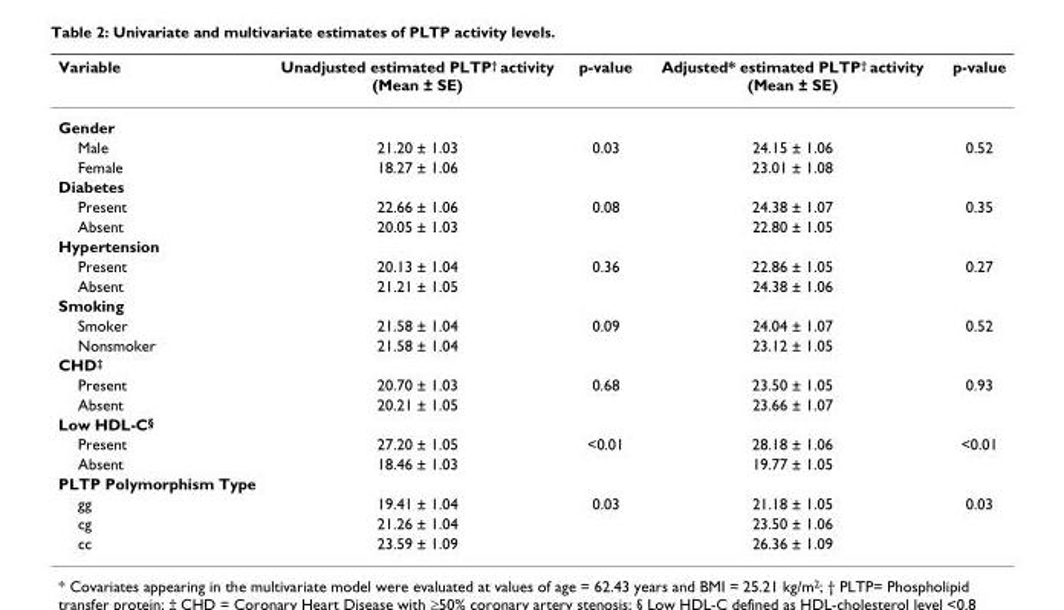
<table><thead><tr><td>Variable</td><td>Unadjusted estimated PLTP<sup>†</sup> activity (Mean ± SE)</td><td>p-value</td><td>Adjusted* estimated PLTP<sup>†</sup> activity (Mean ± SE)</td><td>p-value</td></tr></thead><tbody><tr><td colspan="5">Gender</td></tr><tr><td>Male</td><td>21.20 ± 1.03</td><td>0.03</td><td>24.15 ± 1.06</td><td>0.52</td></tr><tr><td>Female</td><td>18.27 ± 1.06</td><td></td><td>23.01 ± 1.08</td><td></td></tr><tr><td colspan="5">Diabetes</td></tr><tr><td>Present</td><td>22.66 ± 1.06</td><td>0.08</td><td>24.38 ± 1.07</td><td>0.35</td></tr><tr><td>Absent</td><td>20.05 ± 1.03</td><td></td><td>22.80 ± 1.05</td><td></td></tr><tr><td colspan="5">Hypertension</td></tr><tr><td>Present</td><td>20.13 ± 1.04</td><td>0.36</td><td>22.86 ± 1.05</td><td>0.27</td></tr><tr><td>Absent</td><td>21.21 ± 1.05</td><td></td><td>24.38 ± 1.06</td><td></td></tr><tr><td colspan="5">Smoking</td></tr><tr><td>Smoker</td><td>21.58 ± 1.04</td><td>0.09</td><td>24.04 ± 1.07</td><td>0.52</td></tr><tr><td>Nonsmoker</td><td>21.58 ± 1.04</td><td></td><td>23.12 ± 1.05</td><td></td></tr><tr><td colspan="5">CHD<sup>‡</sup></td></tr><tr><td>Present</td><td>20.70 ± 1.03</td><td>0.68</td><td>23.50 ± 1.05</td><td>0.93</td></tr><tr><td>Absent</td><td>20.21 ± 1.05</td><td></td><td>23.66 ± 1.07</td><td></td></tr><tr><td colspan="5">Low HDL-C<sup>§</sup></td></tr><tr><td>Present</td><td>27.20 ± 1.05</td><td>&lt;0.01</td><td>28.18 ± 1.06</td><td>&lt;0.01</td></tr><tr><td>Absent</td><td>18.46 ± 1.03</td><td></td><td>19.77 ± 1.05</td><td></td></tr><tr><td colspan="5">PLTP Polymorphism Type</td></tr><tr><td>gg</td><td>19.41 ± 1.04</td><td>0.03</td><td>21.18 ± 1.05</td><td>0.03</td></tr><tr><td>cg</td><td>21.26 ± 1.04</td><td></td><td>23.50 ± 1.06</td><td></td></tr><tr><td>cc</td><td>23.59 ± 1.09</td><td></td><td>26.36 ± 1.09</td><td></td></tr></tbody></table>